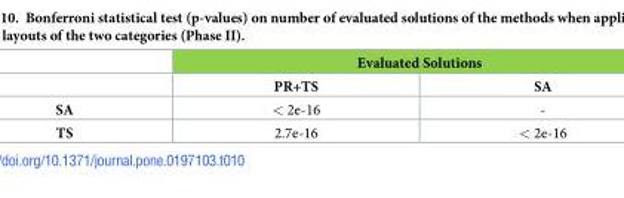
<table><thead><tr><td rowspan="2"></td><td colspan="2">Evaluated Solutions</td></tr><tr><td>PR+TS</td><td>SA</td></tr></thead><tbody><tr><td>SA</td><td>&lt; 2e-16</td><td>-</td></tr><tr><td>TS</td><td>2.7e-16</td><td>&lt; 2e-16</td></tr></tbody></table>